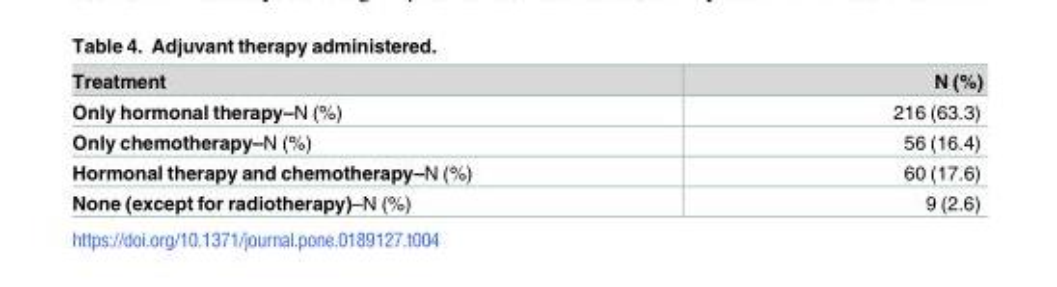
<table><thead><tr><td>Treatment</td><td>N (%)</td></tr></thead><tbody><tr><td>Only hormonal therapy–N (%)</td><td>216 (63.3)</td></tr><tr><td>Only chemotherapy–N (%)</td><td>56 (16.4)</td></tr><tr><td>Hormonal therapy and chemotherapy–N (%)</td><td>60 (17.6)</td></tr><tr><td>None (except for radiotherapy)–N (%)</td><td>9 (2.6)</td></tr></tbody></table>